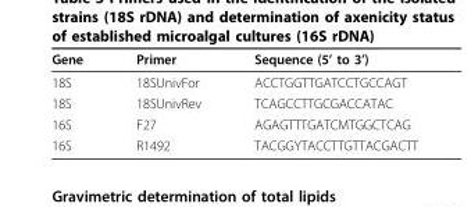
<table><thead><tr><td>Gene</td><td>Primer</td><td>Sequence (5’ to 3’)</td></tr></thead><tbody><tr><td>18S</td><td>18SUnivFor</td><td>ACCTGGTTGATCCTGCCAGT</td></tr><tr><td>18S</td><td>18SUnivRev</td><td>TCAGCCTTGCGACCATAC</td></tr><tr><td>16S</td><td>F27</td><td>AGAGTTTGATCMTGGCTCAG</td></tr><tr><td>16S</td><td>R1492</td><td>TACGGYTACCTTGTTACGACTT</td></tr></tbody></table>